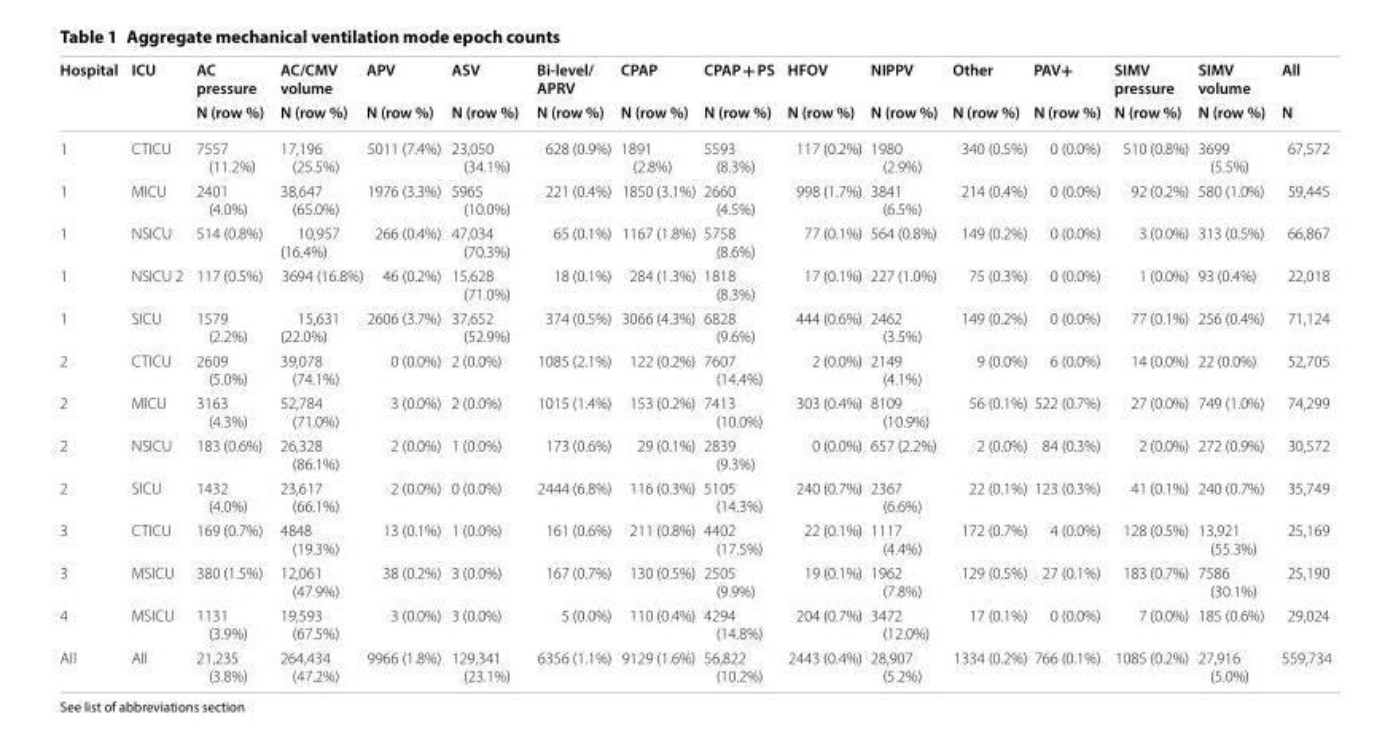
<table><thead><tr><td rowspan="2">Hospital</td><td rowspan="2">ICU</td><td rowspan="2">AC pressure N (row %)</td><td rowspan="2">AC/CMV volume N (row %)</td><td rowspan="2">APV N (row %)</td><td rowspan="2">ASV N (row %)</td><td rowspan="2">Bi-level/ APRV N (row %)</td><td rowspan="2">CPAP N (row %)</td><td rowspan="2">CPAP + PS N (row %)</td><td rowspan="2">HFOV N (row %)</td><td rowspan="2">NIPPV N (row %)</td><td rowspan="2">Other N (row %)</td><td rowspan="2">PAV+ N (row %)</td><td rowspan="2">SIMV pressure N (row %)</td><td rowspan="2">SIMV volume N (row %)</td><td rowspan="2">All N</td></tr><tr></tr></thead><tbody><tr><td>1</td><td>CTICU</td><td>7557 (11.2%)</td><td>17,196 (25.5%)</td><td>5011 (7.4%)</td><td>23,050 (34.1%)</td><td>628 (0.9%)</td><td>1891 (2.8%)</td><td>5593 (8.3%)</td><td>117 (0.2%)</td><td>1980 (2.9%)</td><td>340 (0.5%)</td><td>0 (0.0%)</td><td>510 (0.8%)</td><td>3699 (5.5%)</td><td>67,572</td></tr><tr><td>1</td><td>MICU</td><td>2401 (4.0%)</td><td>38,647 (65.0%)</td><td>1976 (3.3%)</td><td>5965 (10.0%)</td><td>221 (0.4%)</td><td>1850 (3.1%)</td><td>2660 (4.5%)</td><td>998 (1.7%)</td><td>3841 (6.5%)</td><td>214 (0.4%)</td><td>0 (0.0%)</td><td>92 (0.2%)</td><td>580 (1.0%)</td><td>59,445</td></tr><tr><td>1</td><td>NSICU</td><td>514 (0.8%)</td><td>10,957 (16.4%)</td><td>266 (0.4%)</td><td>47,034 (70.3%)</td><td>65 (0.1%)</td><td>1167 (1.8%)</td><td>5758 (8.6%)</td><td>77 (0.1%)</td><td>564 (0.8%)</td><td>149 (0.2%)</td><td>0 (0.0%)</td><td>3 (0.0%)</td><td>313 (0.5%)</td><td>66,867</td></tr><tr><td>1</td><td>NSICU 2</td><td>117 (0.5%)</td><td>3694 (16.8%)</td><td>46 (0.2%)</td><td>15,628 (71.0%)</td><td>18 (0.1%)</td><td>284 (1.3%)</td><td>1818 (8.3%)</td><td>17 (0.1%)</td><td>227 (1.0%)</td><td>75 (0.3%)</td><td>0 (0.0%)</td><td>1 (0.0%)</td><td>93 (0.4%)</td><td>22,018</td></tr><tr><td>1</td><td>SICU</td><td>1579 (2.2%)</td><td>15,631 (22.0%)</td><td>2606 (3.7%)</td><td>37,652 (52.9%)</td><td>374 (0.5%)</td><td>3066 (4.3%)</td><td>6828 (9.6%)</td><td>444 (0.6%)</td><td>2462 (3.5%)</td><td>149 (0.2%)</td><td>0 (0.0%)</td><td>77 (0.1%)</td><td>256 (0.4%)</td><td>71,124</td></tr><tr><td>2</td><td>CTICU</td><td>2609 (5.0%)</td><td>39,078 (74.1%)</td><td>0 (0.0%)</td><td>2 (0.0%)</td><td>1085 (2.1%)</td><td>122 (0.2%)</td><td>7607 (14.4%)</td><td>2 (0.0%)</td><td>2149 (4.1%)</td><td>9 (0.0%)</td><td>6 (0.0%)</td><td>14 (0.0%)</td><td>22 (0.0%)</td><td>52,705</td></tr><tr><td>2</td><td>MICU</td><td>3163 (4.3%)</td><td>52,784 (71.0%)</td><td>3 (0.0%)</td><td>2 (0.0%)</td><td>1015 (1.4%)</td><td>153 (0.2%)</td><td>7413 (10.0%)</td><td>303 (0.4%)</td><td>8109 (10.9%)</td><td>56 (0.1%)</td><td>522 (0.7%)</td><td>27 (0.0%)</td><td>749 (1.0%)</td><td>74,299</td></tr><tr><td>2</td><td>NSICU</td><td>183 (0.6%)</td><td>26,328 (86.1%)</td><td>2 (0.0%)</td><td>1 (0.0%)</td><td>173 (0.6%)</td><td>29 (0.1%)</td><td>2839 (9.3%)</td><td>0 (0.0%)</td><td>657 (2.2%)</td><td>2 (0.0%)</td><td>84 (0.3%)</td><td>2 (0.0%)</td><td>272 (0.9%)</td><td>30,572</td></tr><tr><td>2</td><td>SICU</td><td>1432 (4.0%)</td><td>23,617 (66.1%)</td><td>2 (0.0%)</td><td>0 (0.0%)</td><td>2444 (6.8%)</td><td>116 (0.3%)</td><td>5105 (14.3%)</td><td>240 (0.7%)</td><td>2367 (6.6%)</td><td>22 (0.1%)</td><td>123 (0.3%)</td><td>41 (0.1%)</td><td>240 (0.7%)</td><td>35,749</td></tr><tr><td>3</td><td>CTICU</td><td>169 (0.7%)</td><td>4848 (19.3%)</td><td>13 (0.1%)</td><td>1 (0.0%)</td><td>161 (0.6%)</td><td>211 (0.8%)</td><td>4402 (17.5%)</td><td>22 (0.1%)</td><td>1117 (4.4%)</td><td>172 (0.7%)</td><td>4 (0.0%)</td><td>128 (0.5%)</td><td>13,921 (55.3%)</td><td>25,169</td></tr><tr><td>3</td><td>MSICU</td><td>380 (1.5%)</td><td>12,061 (47.9%)</td><td>38 (0.2%)</td><td>3 (0.0%)</td><td>167 (0.7%)</td><td>130 (0.5%)</td><td>2505 (9.9%)</td><td>19 (0.1%)</td><td>1962 (7.8%)</td><td>129 (0.5%)</td><td>27 (0.1%)</td><td>183 (0.7%)</td><td>7586 (30.1%)</td><td>25,190</td></tr><tr><td>4</td><td>MSICU</td><td>1131 (3.9%)</td><td>19,593 (67.5%)</td><td>3 (0.0%)</td><td>3 (0.0%)</td><td>5 (0.0%)</td><td>110 (0.4%)</td><td>4294 (14.8%)</td><td>204 (0.7%)</td><td>3472 (12.0%)</td><td>17 (0.1%)</td><td>0 (0.0%)</td><td>7 (0.0%)</td><td>185 (0.6%)</td><td>29,024</td></tr><tr><td>All</td><td>All</td><td>21,235 (3.8%)</td><td>264,434 (47.2%)</td><td>9966 (1.8%)</td><td>129,341 (23.1%)</td><td>6356 (1.1%)</td><td>9129 (1.6%)</td><td>56,822 (10.2%)</td><td>2443 (0.4%)</td><td>28,907 (5.2%)</td><td>1334 (0.2%)</td><td>766 (0.1%)</td><td>1085 (0.2%)</td><td>27,916 (5.0%)</td><td>559,734</td></tr></tbody></table>